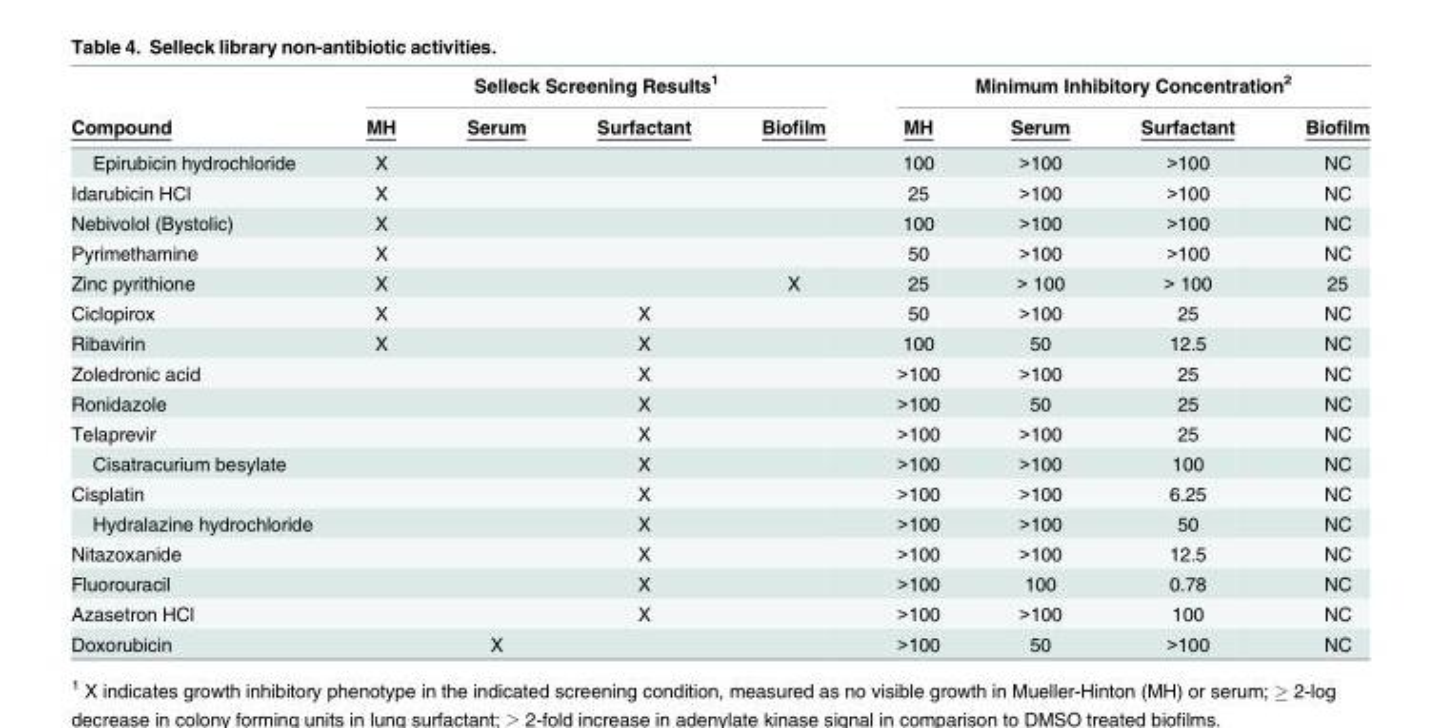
<table><thead><tr><td rowspan="2">Compound</td><td colspan="4">Selleck Screening Results<sup>1</sup></td><td colspan="4">Minimum Inhibitory Concentration<sup>2</sup></td></tr><tr><td>MH</td><td>Serum</td><td>Surfactant</td><td>Biofilm</td><td>MH</td><td>Serum</td><td>Surfactant</td><td>Biofilm</td></tr></thead><tbody><tr><td>Epirubicin hydrochloride</td><td>X</td><td></td><td></td><td></td><td>100</td><td>&gt;100</td><td>&gt;100</td><td>NC</td></tr><tr><td>Idarubicin HCl</td><td>X</td><td></td><td></td><td></td><td>25</td><td>&gt;100</td><td>&gt;100</td><td>NC</td></tr><tr><td>Nebivolol (Bystolic)</td><td>X</td><td></td><td></td><td></td><td>100</td><td>&gt;100</td><td>&gt;100</td><td>NC</td></tr><tr><td>Pyrimethamine</td><td>X</td><td></td><td></td><td></td><td>50</td><td>&gt;100</td><td>&gt;100</td><td>NC</td></tr><tr><td>Zinc pyrithione</td><td>X</td><td></td><td></td><td>X</td><td>25</td><td>&gt; 100</td><td>&gt; 100</td><td>25</td></tr><tr><td>Ciclopirox</td><td>X</td><td></td><td>X</td><td></td><td>50</td><td>&gt;100</td><td>25</td><td>NC</td></tr><tr><td>Ribavirin</td><td>X</td><td></td><td>X</td><td></td><td>100</td><td>50</td><td>12.5</td><td>NC</td></tr><tr><td>Zoledronic acid</td><td></td><td></td><td>X</td><td></td><td>&gt;100</td><td>&gt;100</td><td>25</td><td>NC</td></tr><tr><td>Ronidazole</td><td></td><td></td><td>X</td><td></td><td>&gt;100</td><td>50</td><td>25</td><td>NC</td></tr><tr><td>Telaprevir</td><td></td><td></td><td>X</td><td></td><td>&gt;100</td><td>&gt;100</td><td>25</td><td>NC</td></tr><tr><td>Cisatracurium besylate</td><td></td><td></td><td>X</td><td></td><td>&gt;100</td><td>&gt;100</td><td>100</td><td>NC</td></tr><tr><td>Cisplatin</td><td></td><td></td><td>X</td><td></td><td>&gt;100</td><td>&gt;100</td><td>6.25</td><td>NC</td></tr><tr><td colspan="2">Hydralazine hydrochloride</td><td></td><td>X</td><td></td><td>&gt;100</td><td>&gt;100</td><td>50</td><td>NC</td></tr><tr><td>Nitazoxanide</td><td></td><td></td><td>X</td><td></td><td>&gt;100</td><td>&gt;100</td><td>12.5</td><td>NC</td></tr><tr><td>Fluorouracil</td><td></td><td></td><td>X</td><td></td><td>&gt;100</td><td>100</td><td>0.78</td><td>NC</td></tr><tr><td>Azasetron HCl</td><td></td><td></td><td>X</td><td></td><td>&gt;100</td><td>&gt;100</td><td>100</td><td>NC</td></tr><tr><td>Doxorubicin</td><td></td><td>X</td><td></td><td></td><td>&gt;100</td><td>50</td><td>&gt;100</td><td>NC</td></tr></tbody></table>